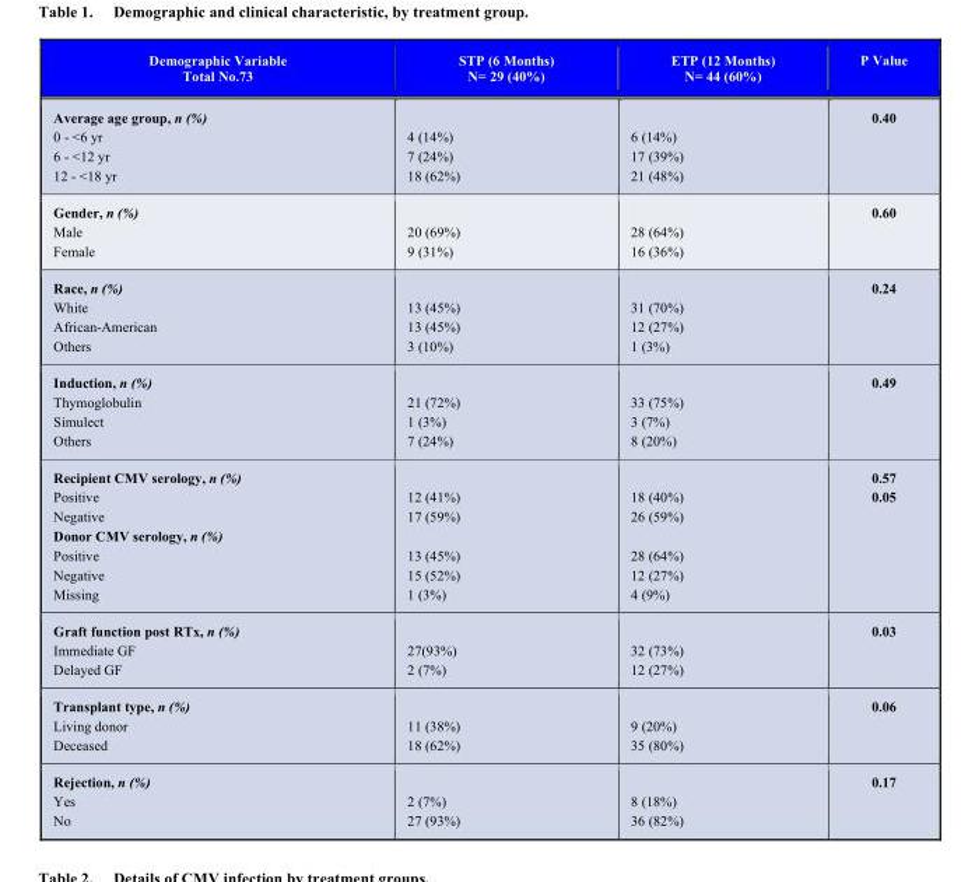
<table><thead><tr><td>Demographic Variable Total No.73</td><td>STP (6 Months) N= 29 (40%)</td><td>ETP (12 Months) N= 44 (60%)</td><td>P Value</td></tr></thead><tbody><tr><td>Average age group, n (%) 0 - &lt;6 yr 6 - &lt;12 yr 12 - &lt;18 yr</td><td>4 (14%) 7 (24%) 18 (62%)</td><td>6 (14%) 17 (39%) 21 (48%)</td><td>0.40</td></tr><tr><td>Gender, n (%) Male Female</td><td>20 (69%) 9 (31%)</td><td>28 (64%) 16 (36%)</td><td>0.60</td></tr><tr><td>Race, n (%) White African-American Others</td><td>13 (45%) 13 (45%) 3 (10%)</td><td>31 (70%) 12 (27%) 1 (3%)</td><td>0.24</td></tr><tr><td>Induction, n (%) Thymoglobulin Simulect Others</td><td>21 (72%) 1 (3%) 7 (24%)</td><td>33 (75%) 3 (7%) 8 (20%)</td><td>0.49</td></tr><tr><td>Recipient CMV serology, n (%) Positive Negative Donor CMV serology, n (%) Positive Negative Missing</td><td>12 (41%) 17 (59%) 13 (45%) 15 (52%) 1 (3%)</td><td>18 (40%) 26 (59%) 28 (64%) 12 (27%) 4 (9%)</td><td>0.57 0.05</td></tr><tr><td>Graft function post RTx, n (%) Immediate GF Delayed GF</td><td>27(93%) 2 (7%)</td><td>32 (73%) 12 (27%)</td><td>0.03</td></tr><tr><td>Transplant type, n (%) Living donor Deceased</td><td>11 (38%) 18 (62%)</td><td>9 (20%) 35 (80%)</td><td>0.06</td></tr><tr><td>Rejection, n (%) Yes No</td><td>2 (7%) 27 (93%)</td><td>8 (18%) 36 (82%)</td><td>0.17</td></tr></tbody></table>